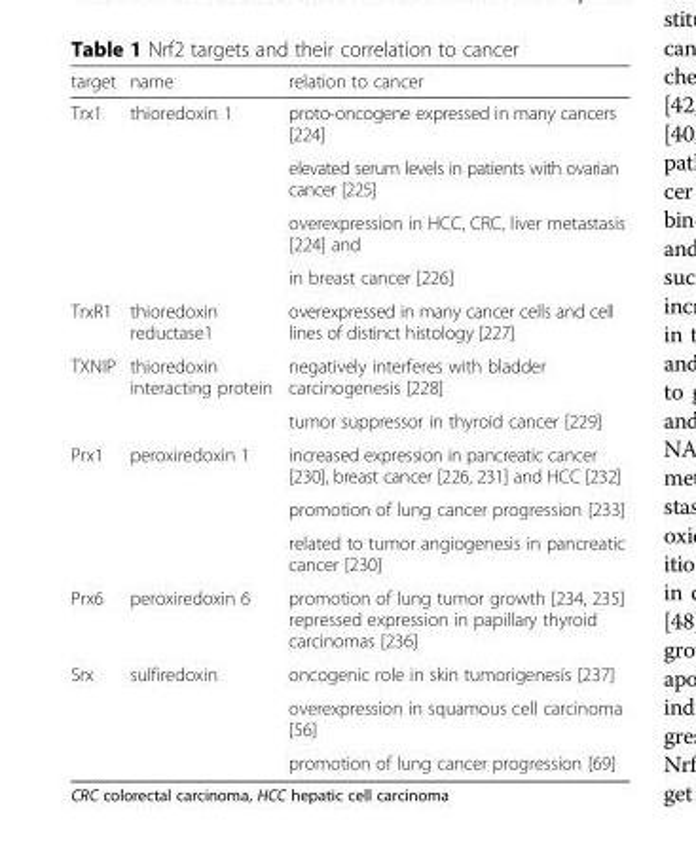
<table><thead><tr><td>target</td><td>name</td><td>relation to cancer</td></tr></thead><tbody><tr><td rowspan="4">Trx1</td><td rowspan="4">thioredoxin 1</td><td>proto-oncogene expressed in many cancers [224]</td></tr><tr><td>elevated serum levels in patients with ovarian cancer [225]</td></tr><tr><td>overexpression in HCC, CRC, liver metastasis [224] and</td></tr><tr><td>in breast cancer [226]</td></tr><tr><td>TrxR1</td><td>thioredoxin reductase1</td><td>overexpressed in many cancer cells and cell lines of distinct histology [227]</td></tr><tr><td rowspan="2">TXNIP</td><td rowspan="2">thioredoxin interacting protein</td><td>negatively interferes with bladder carcinogenesis [228]</td></tr><tr><td>tumor suppressor in thyroid cancer [229]</td></tr><tr><td rowspan="3">Prx1</td><td rowspan="3">peroxiredoxin 1</td><td>increased expression in pancreatic cancer [230], breast cancer [226, 231] and HCC [232]</td></tr><tr><td>promotion of lung cancer progression [233]</td></tr><tr><td>related to tumor angiogenesis in pancreatic cancer [230]</td></tr><tr><td>Prx6</td><td>peroxiredoxin 6</td><td>promotion of lung tumor growth [234, 235] repressed expression in papillary thyroid carcinomas [236]</td></tr><tr><td rowspan="3">Srx</td><td rowspan="3">sulfiredoxin</td><td>oncogenic role in skin tumorigenesis [237]</td></tr><tr><td>overexpression in squamous cell carcinoma [56]</td></tr><tr><td>promotion of lung cancer progression [69]</td></tr></tbody></table>